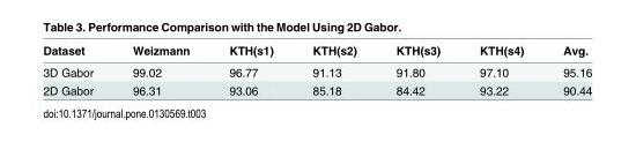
<table><thead><tr><td>Dataset</td><td>Weizmann</td><td>KTH(s1)</td><td>KTH(s2)</td><td>KTH(s3)</td><td>KTH(s4)</td><td>Avg.</td></tr></thead><tbody><tr><td>3D Gabor</td><td>99.02</td><td>96.77</td><td>91.13</td><td>91.80</td><td>97.10</td><td>95.16</td></tr><tr><td>2D Gabor</td><td>96.31</td><td>93.06</td><td>85.18</td><td>84.42</td><td>93.22</td><td>90.44</td></tr></tbody></table>